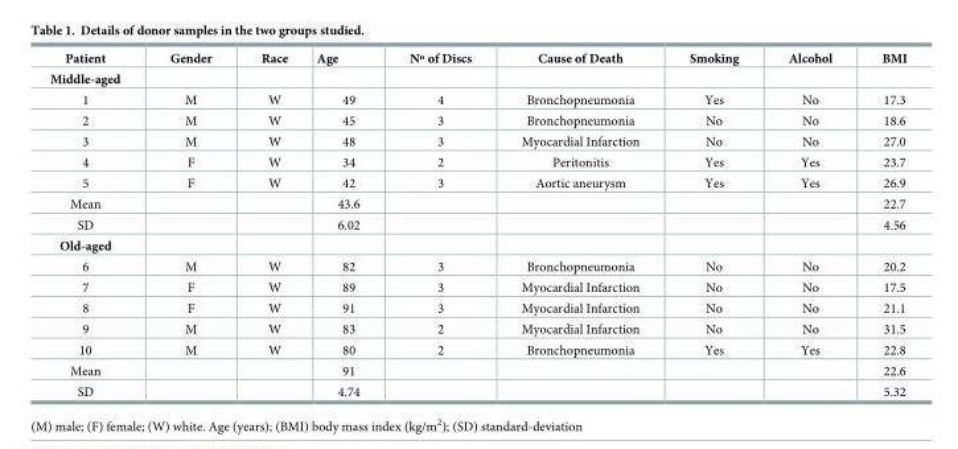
<table><thead><tr><td>Patient</td><td>Gender</td><td>Race</td><td>Age</td><td>Nº of Discs</td><td>Cause of Death</td><td>Smoking</td><td>Alcohol</td><td>BMI</td></tr></thead><tbody><tr><td colspan="9">Middle-aged</td></tr><tr><td>1</td><td>M</td><td>W</td><td>49</td><td>4</td><td>Bronchopneumonia</td><td>Yes</td><td>No</td><td>17.3</td></tr><tr><td>2</td><td>M</td><td>W</td><td>45</td><td>3</td><td>Bronchopneumonia</td><td>No</td><td>No</td><td>18.6</td></tr><tr><td>3</td><td>M</td><td>W</td><td>48</td><td>3</td><td>Myocardial Infarction</td><td>No</td><td>No</td><td>27.0</td></tr><tr><td>4</td><td>F</td><td>W</td><td>34</td><td>2</td><td>Peritonitis</td><td>Yes</td><td>Yes</td><td>23.7</td></tr><tr><td>5</td><td>F</td><td>W</td><td>42</td><td>3</td><td>Aortic aneurysm</td><td>Yes</td><td>Yes</td><td>26.9</td></tr><tr><td>Mean</td><td></td><td></td><td>43.6</td><td></td><td></td><td></td><td></td><td>22.7</td></tr><tr><td>SD</td><td></td><td></td><td>6.02</td><td></td><td></td><td></td><td></td><td>4.56</td></tr><tr><td colspan="9">Old-aged</td></tr><tr><td>6</td><td>M</td><td>W</td><td>82</td><td>3</td><td>Bronchopneumonia</td><td>No</td><td>No</td><td>20.2</td></tr><tr><td>7</td><td>F</td><td>W</td><td>89</td><td>3</td><td>Myocardial Infarction</td><td>No</td><td>No</td><td>17.5</td></tr><tr><td>8</td><td>F</td><td>W</td><td>91</td><td>3</td><td>Myocardial Infarction</td><td>No</td><td>No</td><td>21.1</td></tr><tr><td>9</td><td>M</td><td>W</td><td>83</td><td>2</td><td>Myocardial Infarction</td><td>No</td><td>No</td><td>31.5</td></tr><tr><td>10</td><td>M</td><td>W</td><td>80</td><td>2</td><td>Bronchopneumonia</td><td>Yes</td><td>Yes</td><td>22.8</td></tr><tr><td>Mean</td><td></td><td></td><td>91</td><td></td><td></td><td></td><td></td><td>22.6</td></tr><tr><td>SD</td><td></td><td></td><td>4.74</td><td></td><td></td><td></td><td></td><td>5.32</td></tr></tbody></table>